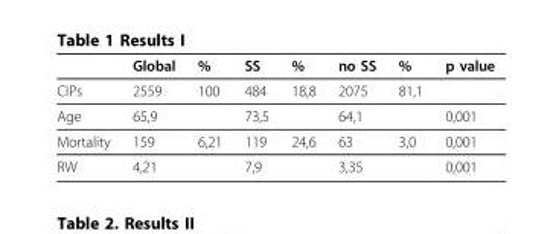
<table><thead><tr><td></td><td>Global</td><td>%</td><td>SS</td><td>%</td><td>no SS</td><td>%</td><td>p value</td></tr></thead><tbody><tr><td>CIPs</td><td>2559</td><td>100</td><td>484</td><td>18,8</td><td>2075</td><td>81,1</td><td></td></tr><tr><td>Age</td><td>65,9</td><td></td><td>73,5</td><td></td><td>64,1</td><td></td><td>0,001</td></tr><tr><td>Mortality</td><td>159</td><td>6,21</td><td>119</td><td>24,6</td><td>63</td><td>3,0</td><td>0,001</td></tr><tr><td>RW</td><td>4,21</td><td></td><td>7,9</td><td></td><td>3,35</td><td></td><td>0,001</td></tr></tbody></table>